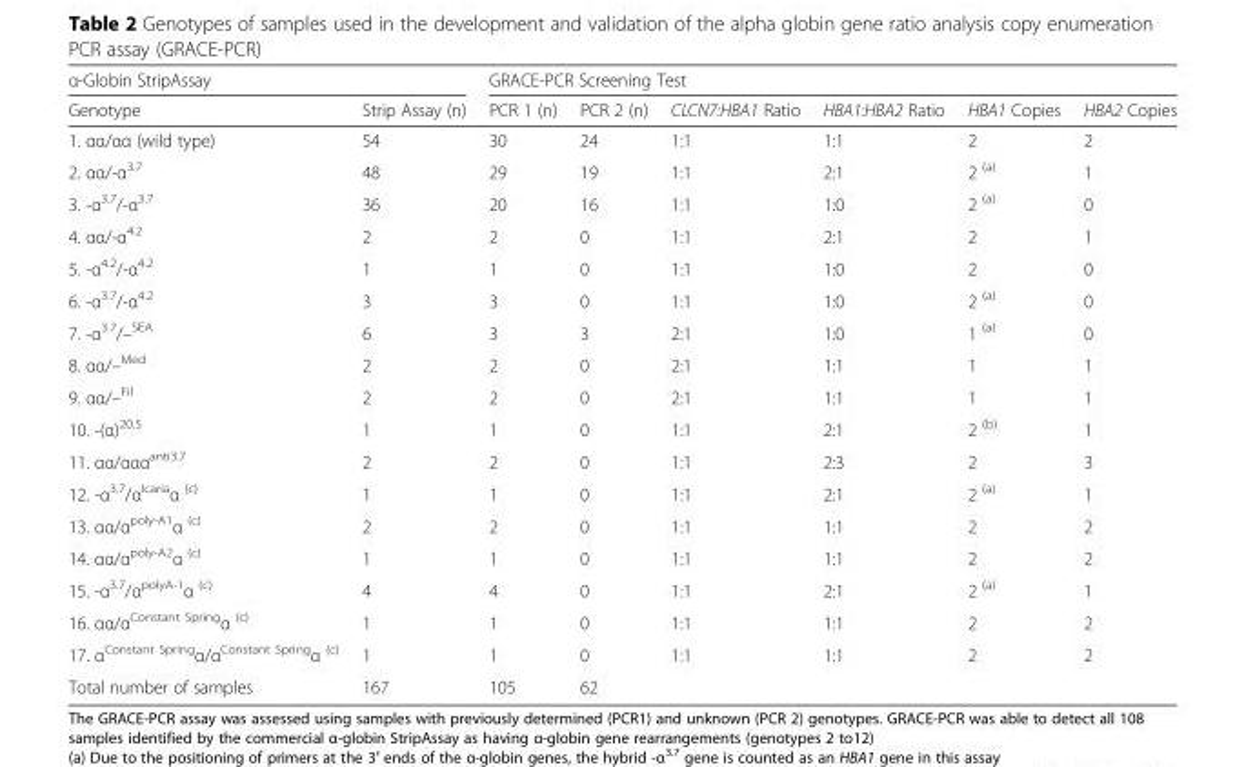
<table><thead><tr><td colspan="2">α-Globin StripAssay</td><td colspan="6">GRACE-PCR Screening Test</td></tr><tr><td>Genotype</td><td>Strip Assay (n)</td><td>PCR 1 (n)</td><td>PCR 2 (n)</td><td>CLCN7:HBA1 Ratio</td><td>HBA1:HBA2 Ratio</td><td>HBA1 Copies</td><td>HBA2 Copies</td></tr></thead><tbody><tr><td>1. αα/αα (wild type)</td><td>54</td><td>30</td><td>24</td><td>1:1</td><td>1:1</td><td>2</td><td>2</td></tr><tr><td>2. αα/-α<sup>3.7</sup></td><td>48</td><td>29</td><td>19</td><td>1:1</td><td>2:1</td><td>2 <sup>(a)</sup></td><td>1</td></tr><tr><td>3. -α<sup>3.7</sup>/-α<sup>3.7</sup></td><td>36</td><td>20</td><td>16</td><td>1:1</td><td>1:0</td><td>2 <sup>(a)</sup></td><td>0</td></tr><tr><td>4. αα/-α<sup>4.2</sup></td><td>2</td><td>2</td><td>0</td><td>1:1</td><td>2:1</td><td>2</td><td>1</td></tr><tr><td>5. -α<sup>4.2</sup>/-α<sup>4.2</sup></td><td>1</td><td>1</td><td>0</td><td>1:1</td><td>1:0</td><td>2</td><td>0</td></tr><tr><td>6. -α<sup>3.7</sup>/-α<sup>4.2</sup></td><td>3</td><td>3</td><td>0</td><td>1:1</td><td>1:0</td><td>2 <sup>(a)</sup></td><td>0</td></tr><tr><td>7. -α3.7/–SEA</td><td>6</td><td>3</td><td>3</td><td>2:1</td><td>1:0</td><td>1 <sup>(a)</sup></td><td>0</td></tr><tr><td>8. αα/–Med</td><td>2</td><td>2</td><td>0</td><td>2:1</td><td>1:1</td><td>1</td><td>1</td></tr><tr><td>9. αα/–Fil</td><td>2</td><td>2</td><td>0</td><td>2:1</td><td>1:1</td><td>1</td><td>1</td></tr><tr><td>10. -(α)<sup>20.5</sup></td><td>1</td><td>1</td><td>0</td><td>1:1</td><td>2:1</td><td>2 <sup>(b)</sup></td><td>1</td></tr><tr><td>11. αα/ααα<sup>anti3.7</sup></td><td>2</td><td>2</td><td>0</td><td>1:1</td><td>2:3</td><td>2</td><td>3</td></tr><tr><td>12. -α<sup>3.7</sup>/α<sup>Icaria</sup>α <sup>(c)</sup></td><td>1</td><td>1</td><td>0</td><td>1:1</td><td>2:1</td><td>2 <sup>(a)</sup></td><td>1</td></tr><tr><td>13. αα/α<sup>poly-A1</sup>α <sup>(c)</sup></td><td>2</td><td>2</td><td>0</td><td>1:1</td><td>1:1</td><td>2</td><td>2</td></tr><tr><td>14. αα/α<sup>poly-A2</sup>α <sup>(c)</sup></td><td>1</td><td>1</td><td>0</td><td>1:1</td><td>1:1</td><td>2</td><td>2</td></tr><tr><td>15. -α<sup>3.7</sup>/α<sup>polyA-1</sup>α <sup>(c)</sup></td><td>4</td><td>4</td><td>0</td><td>1:1</td><td>2:1</td><td>2 <sup>(a)</sup></td><td>1</td></tr><tr><td>16. αα/α<sup>Constant Spring</sup>α <sup>(c)</sup></td><td>1</td><td>1</td><td>0</td><td>1:1</td><td>1:1</td><td>2</td><td>2</td></tr><tr><td>17. α<sup>Constant Spring</sup>α/α<sup>Constant Spring</sup>α <sup>(c)</sup></td><td>1</td><td>1</td><td>0</td><td>1:1</td><td>1:1</td><td>2</td><td>2</td></tr><tr><td>Total number of samples</td><td>167</td><td>105</td><td>62</td><td colspan="4"></td></tr></tbody></table>